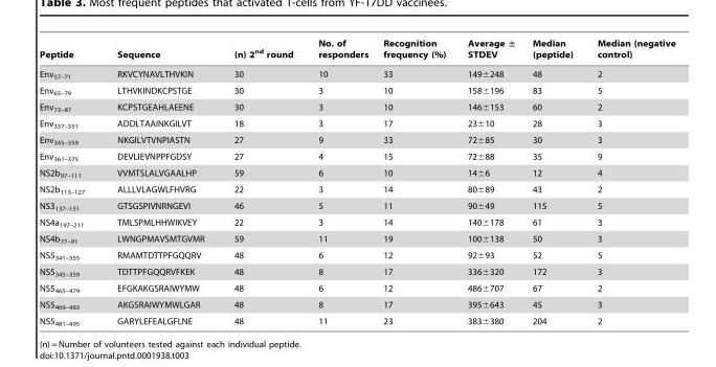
<table><thead><tr><td>Peptide</td><td>Sequence</td><td>(n) 2<sup>nd</sup> round</td><td>No. of responders</td><td>Recognition frequency (%)</td><td>Average ± STDEV</td><td>Median (peptide)</td><td>Median (negative control)</td></tr></thead><tbody><tr><td>Env<sub>57–71</sub></td><td>RKVCYNAVLTHVKIN</td><td>30</td><td>10</td><td>33</td><td>149±248</td><td>48</td><td>2</td></tr><tr><td>Env<sub>65–79</sub></td><td>LTHVKINDKCPSTGE</td><td>30</td><td>3</td><td>10</td><td>158±196</td><td>83</td><td>5</td></tr><tr><td>Env<sub>73–87</sub></td><td>KCPSTGEAHLAEENE</td><td>30</td><td>3</td><td>10</td><td>146±153</td><td>60</td><td>2</td></tr><tr><td>Env<sub>337–351</sub></td><td>ADDLTAAINKGILVT</td><td>18</td><td>3</td><td>17</td><td>23±10</td><td>28</td><td>3</td></tr><tr><td>Env<sub>345–359</sub></td><td>NKGILVTVNPIASTN</td><td>27</td><td>9</td><td>33</td><td>72±85</td><td>30</td><td>3</td></tr><tr><td>Env<sub>361–375</sub></td><td>DEVLIEVNPPFGDSY</td><td>27</td><td>4</td><td>15</td><td>72±88</td><td>35</td><td>9</td></tr><tr><td>NS2b<sub>97–111</sub></td><td>VVMTSLALVGAALHP</td><td>59</td><td>6</td><td>10</td><td>14±6</td><td>12</td><td>4</td></tr><tr><td>NS2b<sub>113–127</sub></td><td>ALLLVLAGWLFHVRG</td><td>22</td><td>3</td><td>14</td><td>80±89</td><td>43</td><td>2</td></tr><tr><td>NS3<sub>137–151</sub></td><td>GTSGSPIVNRNGEVI</td><td>46</td><td>5</td><td>11</td><td>90±49</td><td>115</td><td>5</td></tr><tr><td>NS4a<sub>197–211</sub></td><td>TMLSPMLHHWIKVEY</td><td>22</td><td>3</td><td>14</td><td>140±178</td><td>61</td><td>3</td></tr><tr><td>NS4b<sub>77–91</sub></td><td>LWNGPMAVSMTGVMR</td><td>59</td><td>11</td><td>19</td><td>100±138</td><td>50</td><td>3</td></tr><tr><td>NS5<sub>341–355</sub></td><td>RMAMTDTTPFGQQRV</td><td>48</td><td>6</td><td>12</td><td>92±93</td><td>52</td><td>5</td></tr><tr><td>NS5<sub>345–359</sub></td><td>TDTTPFGQQRVFKEK</td><td>48</td><td>8</td><td>17</td><td>336±320</td><td>172</td><td>3</td></tr><tr><td>NS5<sub>465–479</sub></td><td>EFGKAKGSRAIWYMW</td><td>48</td><td>6</td><td>12</td><td>486±707</td><td>67</td><td>2</td></tr><tr><td>NS5<sub>469–483</sub></td><td>AKGSRAIWYMWLGAR</td><td>48</td><td>8</td><td>17</td><td>395±643</td><td>45</td><td>3</td></tr><tr><td>NS5<sub>481–495</sub></td><td>GARYLEFEALGFLNE</td><td>48</td><td>11</td><td>23</td><td>383±380</td><td>204</td><td>2</td></tr></tbody></table>